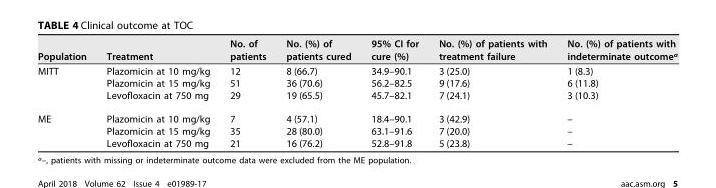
<table><thead><tr><td>Population</td><td>Treatment</td><td>No. of patients</td><td>No. (%) of patients cured</td><td>95% CI for cure (%)</td><td>No. (%) of patients with treatment failure</td><td>No. (%) of patients with indeterminate outcome<sup>a</sup></td></tr></thead><tbody><tr><td rowspan="3">MITT</td><td>Plazomicin at 10 mg/kg</td><td>12</td><td>8 (66.7)</td><td>34.9–90.1</td><td>3 (25.0)</td><td>1 (8.3)</td></tr><tr><td>Plazomicin at 15 mg/kg</td><td>51</td><td>36 (70.6)</td><td>56.2–82.5</td><td>9 (17.6)</td><td>6 (11.8)</td></tr><tr><td>Levofloxacin at 750 mg</td><td>29</td><td>19 (65.5)</td><td>45.7–82.1</td><td>7 (24.1)</td><td>3 (10.3)</td></tr><tr><td rowspan="3">ME</td><td>Plazomicin at 10 mg/kg</td><td>7</td><td>4 (57.1)</td><td>18.4–90.1</td><td>3 (42.9)</td><td>–</td></tr><tr><td>Plazomicin at 15 mg/kg</td><td>35</td><td>28 (80.0)</td><td>63.1–91.6</td><td>7 (20.0)</td><td>–</td></tr><tr><td>Levofloxacin at 750 mg</td><td>21</td><td>16 (76.2)</td><td>52.8–91.8</td><td>5 (23.8)</td><td>–</td></tr></tbody></table>